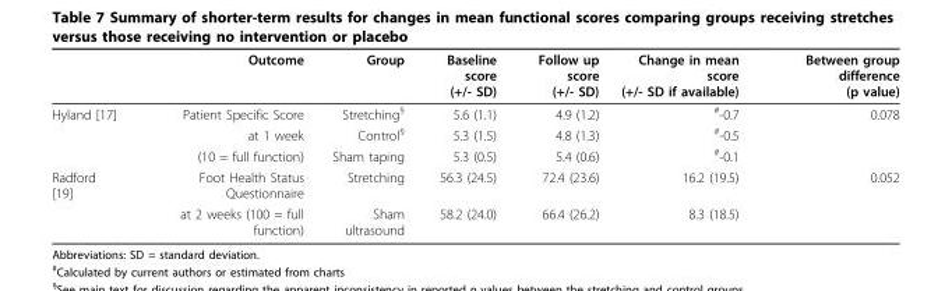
<table><thead><tr><td></td><td>Outcome</td><td>Group</td><td>Baseline score (+/- SD)</td><td>Follow up score (+/- SD)</td><td>Change in mean score (+/- SD if available)</td><td>Between group difference (p value)</td></tr></thead><tbody><tr><td rowspan="3">Hyland [17]</td><td>Patient Specific Score</td><td>Stretching<sup>§</sup></td><td>5.6 (1.1)</td><td>4.9 (1.2)</td><td><sup>#</sup>-0.7</td><td>0.078</td></tr><tr><td>at 1 week</td><td>Control<sup>§</sup></td><td>5.3 (1.5)</td><td>4.8 (1.3)</td><td><sup>#</sup>-0.5</td><td></td></tr><tr><td>(10 = full function)</td><td>Sham taping</td><td>5.3 (0.5)</td><td>5.4 (0.6)</td><td><sup>#</sup>-0.1</td><td></td></tr><tr><td rowspan="2">Radford [19]</td><td>Foot Health Status Questionnaire</td><td>Stretching</td><td>56.3 (24.5)</td><td>72.4 (23.6)</td><td>16.2 (19.5)</td><td>0.052</td></tr><tr><td>at 2 weeks (100 = full function)</td><td>Sham ultrasound</td><td>58.2 (24.0)</td><td>66.4 (26.2)</td><td>8.3 (18.5)</td><td></td></tr></tbody></table>